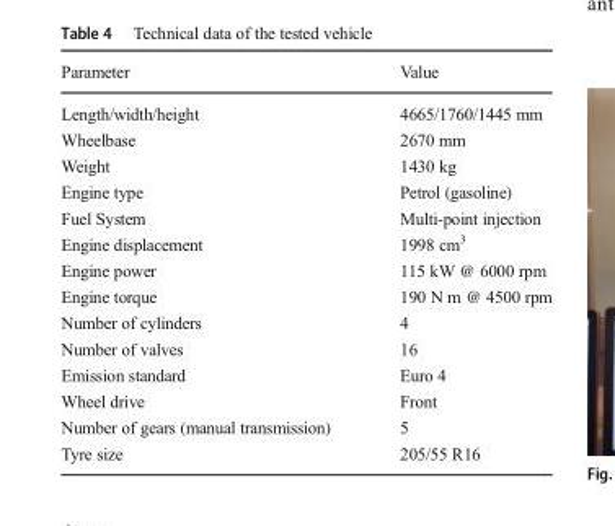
<table><thead><tr><td>Parameter</td><td>Value</td></tr></thead><tbody><tr><td>Length/width/height</td><td>4665/1760/1445 mm</td></tr><tr><td>Wheelbase</td><td>2670 mm</td></tr><tr><td>Weight</td><td>1430 kg</td></tr><tr><td>Engine type</td><td>Petrol (gasoline)</td></tr><tr><td>Fuel System</td><td>Multi-point injection</td></tr><tr><td>Engine displacement</td><td>1998 cm<sup>3</sup></td></tr><tr><td>Engine power</td><td>115 kW @ 6000 rpm</td></tr><tr><td>Engine torque</td><td>190 N m @ 4500 rpm</td></tr><tr><td>Number of cylinders</td><td>4</td></tr><tr><td>Number of valves</td><td>16</td></tr><tr><td>Emission standard</td><td>Euro 4</td></tr><tr><td>Wheel drive</td><td>Front</td></tr><tr><td>Number of gears (manual transmission)</td><td>5</td></tr><tr><td>Tyre size</td><td>205/55 R16</td></tr></tbody></table>